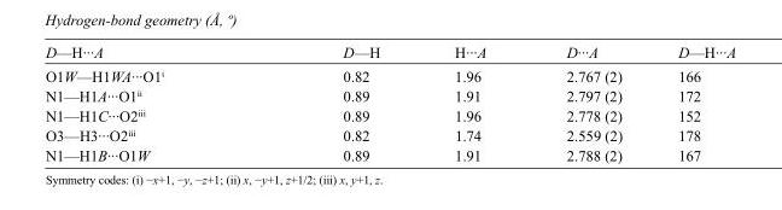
<table><tbody><tr><td>D—H···A</td><td>D—H</td><td>H···A</td><td>D···A</td><td>D—H···A</td></tr><tr><td>O1W—H1WA···O1<sup>i</sup></td><td>0.82</td><td>1.96</td><td>2.767 (2)</td><td>166</td></tr><tr><td>N1—H1A···O1<sup>ii</sup></td><td>0.89</td><td>1.91</td><td>2.797 (2)</td><td>172</td></tr><tr><td>N1—H1C···O2<sup>iii</sup></td><td>0.89</td><td>1.96</td><td>2.778 (2)</td><td>152</td></tr><tr><td>O3—H3···O2<sup>iii</sup></td><td>0.82</td><td>1.74</td><td>2.559 (2)</td><td>178</td></tr><tr><td>N1—H1B···O1W</td><td>0.89</td><td>1.91</td><td>2.788 (2)</td><td>167</td></tr></tbody></table>